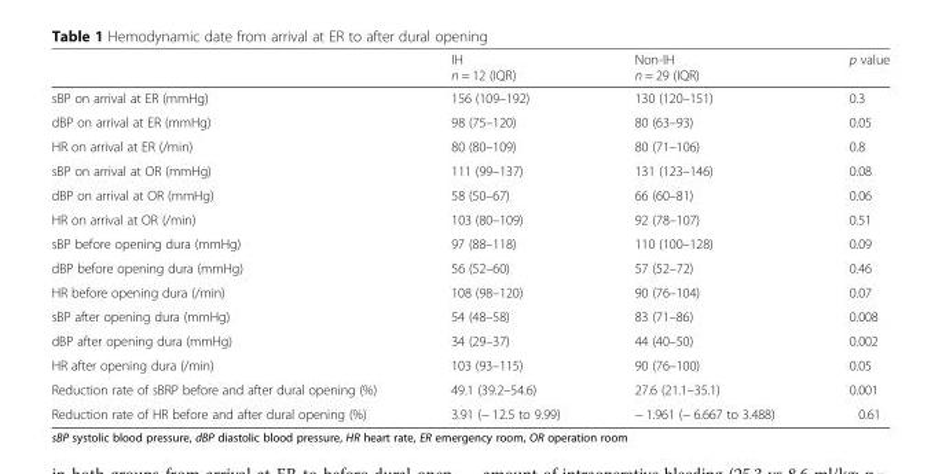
<table><thead><tr><td></td><td>IH n = 12 (IQR)</td><td>Non-IH n = 29 (IQR)</td><td>p value</td></tr></thead><tbody><tr><td>sBP on arrival at ER (mmHg)</td><td>156 (109–192)</td><td>130 (120–151)</td><td>0.3</td></tr><tr><td>dBP on arrival at ER (mmHg)</td><td>98 (75–120)</td><td>80 (63–93)</td><td>0.05</td></tr><tr><td>HR on arrival at ER (/min)</td><td>80 (80–109)</td><td>80 (71–106)</td><td>0.8</td></tr><tr><td>sBP on arrival at OR (mmHg)</td><td>111 (99–137)</td><td>131 (123–146)</td><td>0.08</td></tr><tr><td>dBP on arrival at OR (mmHg)</td><td>58 (50–67)</td><td>66 (60–81)</td><td>0.06</td></tr><tr><td>HR on arrival at OR (/min)</td><td>103 (80–109)</td><td>92 (78–107)</td><td>0.51</td></tr><tr><td>sBP before opening dura (mmHg)</td><td>97 (88–118)</td><td>110 (100–128)</td><td>0.09</td></tr><tr><td>dBP before opening dura (mmHg)</td><td>56 (52–60)</td><td>57 (52–72)</td><td>0.46</td></tr><tr><td>HR before opening dura (/min)</td><td>108 (98–120)</td><td>90 (76–104)</td><td>0.07</td></tr><tr><td>sBP after opening dura (mmHg)</td><td>54 (48–58)</td><td>83 (71–86)</td><td>0.008</td></tr><tr><td>dBP after opening dura (mmHg)</td><td>34 (29–37)</td><td>44 (40–50)</td><td>0.002</td></tr><tr><td>HR after opening dura (/min)</td><td>103 (93–115)</td><td>90 (76–100)</td><td>0.05</td></tr><tr><td>Reduction rate of sBRP before and after dural opening (%)</td><td>49.1 (39.2–54.6)</td><td>27.6 (21.1–35.1)</td><td>0.001</td></tr><tr><td>Reduction rate of HR before and after dural opening (%)</td><td>3.91 (− 12.5 to 9.99)</td><td>− 1.961 (− 6.667 to 3.488)</td><td>0.61</td></tr></tbody></table>